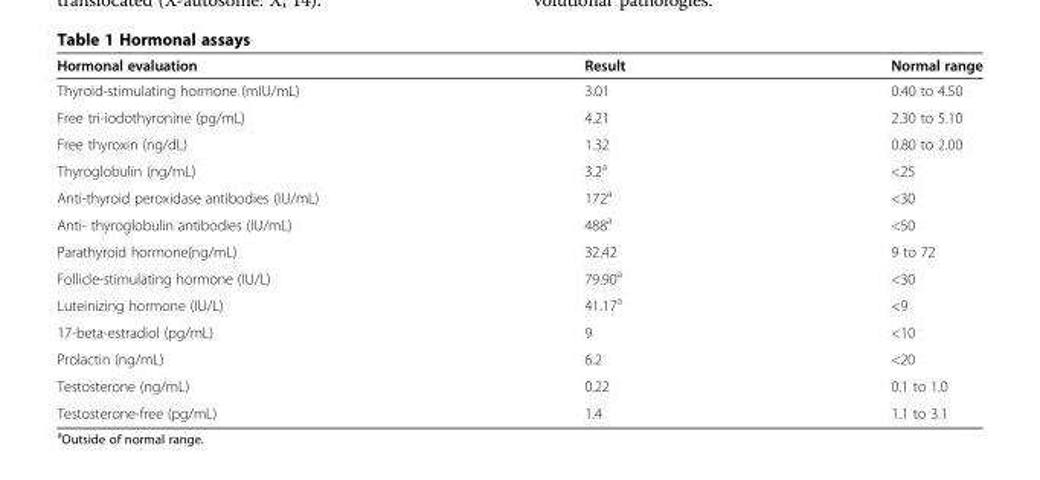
<table><thead><tr><td>Hormonal evaluation</td><td>Result</td><td>Normal range</td></tr></thead><tbody><tr><td>Thyroid-stimulating hormone (mIU/mL)</td><td>3.01</td><td>0.40 to 4.50</td></tr><tr><td>Free tri-iodothyronine (pg/mL)</td><td>4.21</td><td>2.30 to 5.10</td></tr><tr><td>Free thyroxin (ng/dL)</td><td>1.32</td><td>0.80 to 2.00</td></tr><tr><td>Thyroglobulin (ng/mL)</td><td>3.2<sup>a</sup></td><td>&lt;25</td></tr><tr><td>Anti-thyroid peroxidase antibodies (IU/mL)</td><td>172<sup>a</sup></td><td>&lt;30</td></tr><tr><td>Anti- thyroglobulin antibodies (IU/mL)</td><td>488<sup>a</sup></td><td>&lt;50</td></tr><tr><td>Parathyroid hormone(ng/mL)</td><td>32.42</td><td>9 to 72</td></tr><tr><td>Follicle-stimulating hormone (IU/L)</td><td>79.90<sup>a</sup></td><td>&lt;30</td></tr><tr><td>Luteinizing hormone (IU/L)</td><td>41.17<sup>a</sup></td><td>&lt;9</td></tr><tr><td>17-beta-estradiol (pg/mL)</td><td>9</td><td>&lt;10</td></tr><tr><td>Prolactin (ng/mL)</td><td>6.2</td><td>&lt;20</td></tr><tr><td>Testosterone (ng/mL)</td><td>0.22</td><td>0.1 to 1.0</td></tr><tr><td>Testosterone-free (pg/mL)</td><td>1.4</td><td>1.1 to 3.1</td></tr></tbody></table>